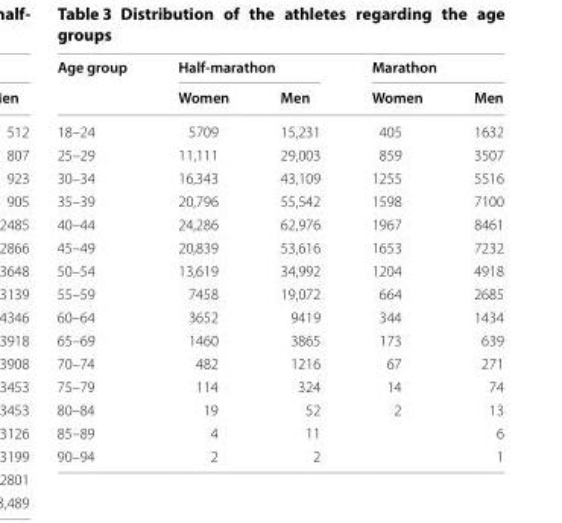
<table><thead><tr><td rowspan="2">Age group</td><td colspan="2">Half-marathon</td><td colspan="2">Marathon</td></tr><tr><td>Women</td><td>Men</td><td>Women</td><td>Men</td></tr></thead><tbody><tr><td>18–24</td><td>5709</td><td>15,231</td><td>405</td><td>1632</td></tr><tr><td>25–29</td><td>11,111</td><td>29,003</td><td>859</td><td>3507</td></tr><tr><td>30–34</td><td>16,343</td><td>43,109</td><td>1255</td><td>5516</td></tr><tr><td>35–39</td><td>20,796</td><td>55,542</td><td>1598</td><td>7100</td></tr><tr><td>40–44</td><td>24,286</td><td>62,976</td><td>1967</td><td>8461</td></tr><tr><td>45–49</td><td>20,839</td><td>53,616</td><td>1653</td><td>7232</td></tr><tr><td>50–54</td><td>13,619</td><td>34,992</td><td>1204</td><td>4918</td></tr><tr><td>55–59</td><td>7458</td><td>19,072</td><td>664</td><td>2685</td></tr><tr><td>60–64</td><td>3652</td><td>9419</td><td>344</td><td>1434</td></tr><tr><td>65–69</td><td>1460</td><td>3865</td><td>173</td><td>639</td></tr><tr><td>70–74</td><td>482</td><td>1216</td><td>67</td><td>271</td></tr><tr><td>75–79</td><td>114</td><td>324</td><td>14</td><td>74</td></tr><tr><td>80–84</td><td>19</td><td>52</td><td>2</td><td>13</td></tr><tr><td>85–89</td><td>4</td><td>11</td><td></td><td>6</td></tr><tr><td>90–94</td><td>2</td><td>2</td><td></td><td>1</td></tr></tbody></table>